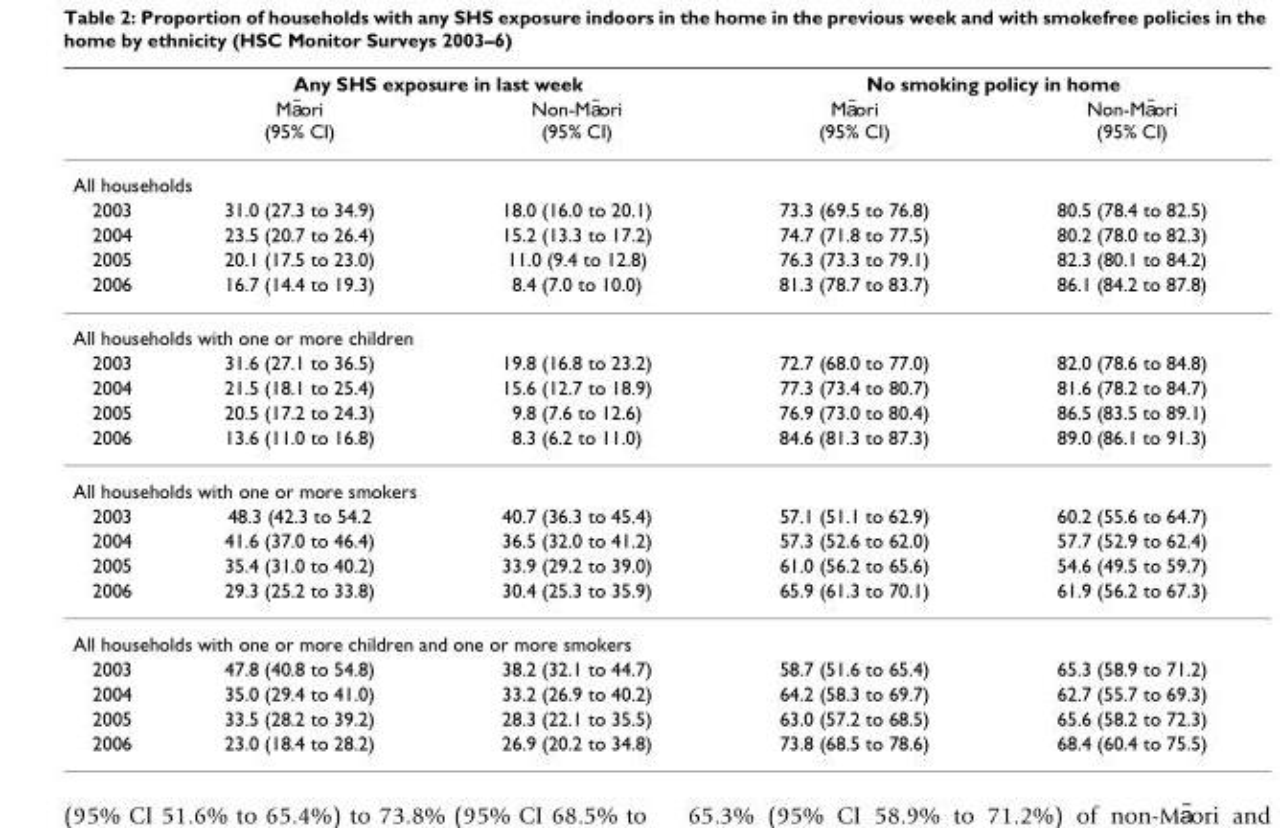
<table><thead><tr><td rowspan="2"></td><td colspan="2">Any SHS exposure in last week</td><td colspan="2">No smoking policy in home</td></tr><tr><td>Ma¯ori (95% CI)</td><td>Non-Ma¯ori (95% CI)</td><td>Ma¯ori (95% CI)</td><td>Non-Ma¯ori (95% CI)</td></tr></thead><tbody><tr><td colspan="5">All households</td></tr><tr><td>2003</td><td>31.0 (27.3 to 34.9)</td><td>18.0 (16.0 to 20.1)</td><td>73.3 (69.5 to 76.8)</td><td>80.5 (78.4 to 82.5)</td></tr><tr><td>2004</td><td>23.5 (20.7 to 26.4)</td><td>15.2 (13.3 to 17.2)</td><td>74.7 (71.8 to 77.5)</td><td>80.2 (78.0 to 82.3)</td></tr><tr><td>2005</td><td>20.1 (17.5 to 23.0)</td><td>11.0 (9.4 to 12.8)</td><td>76.3 (73.3 to 79.1)</td><td>82.3 (80.1 to 84.2)</td></tr><tr><td>2006</td><td>16.7 (14.4 to 19.3)</td><td>8.4 (7.0 to 10.0)</td><td>81.3 (78.7 to 83.7)</td><td>86.1 (84.2 to 87.8)</td></tr><tr><td colspan="5">All households with one or more children</td></tr><tr><td>2003</td><td>31.6 (27.1 to 36.5)</td><td>19.8 (16.8 to 23.2)</td><td>72.7 (68.0 to 77.0)</td><td>82.0 (78.6 to 84.8)</td></tr><tr><td>2004</td><td>21.5 (18.1 to 25.4)</td><td>15.6 (12.7 to 18.9)</td><td>77.3 (73.4 to 80.7)</td><td>81.6 (78.2 to 84.7)</td></tr><tr><td>2005</td><td>20.5 (17.2 to 24.3)</td><td>9.8 (7.6 to 12.6)</td><td>76.9 (73.0 to 80.4)</td><td>86.5 (83.5 to 89.1)</td></tr><tr><td>2006</td><td>13.6 (11.0 to 16.8)</td><td>8.3 (6.2 to 11.0)</td><td>84.6 (81.3 to 87.3)</td><td>89.0 (86.1 to 91.3)</td></tr><tr><td colspan="5">All households with one or more smokers</td></tr><tr><td>2003</td><td>48.3 (42.3 to 54.2</td><td>40.7 (36.3 to 45.4)</td><td>57.1 (51.1 to 62.9)</td><td>60.2 (55.6 to 64.7)</td></tr><tr><td>2004</td><td>41.6 (37.0 to 46.4)</td><td>36.5 (32.0 to 41.2)</td><td>57.3 (52.6 to 62.0)</td><td>57.7 (52.9 to 62.4)</td></tr><tr><td>2005</td><td>35.4 (31.0 to 40.2)</td><td>33.9 (29.2 to 39.0)</td><td>61.0 (56.2 to 65.6)</td><td>54.6 (49.5 to 59.7)</td></tr><tr><td>2006</td><td>29.3 (25.2 to 33.8)</td><td>30.4 (25.3 to 35.9)</td><td>65.9 (61.3 to 70.1)</td><td>61.9 (56.2 to 67.3)</td></tr><tr><td colspan="5">All households with one or more children and one or more smokers</td></tr><tr><td>2003</td><td>47.8 (40.8 to 54.8)</td><td>38.2 (32.1 to 44.7)</td><td>58.7 (51.6 to 65.4)</td><td>65.3 (58.9 to 71.2)</td></tr><tr><td>2004</td><td>35.0 (29.4 to 41.0)</td><td>33.2 (26.9 to 40.2)</td><td>64.2 (58.3 to 69.7)</td><td>62.7 (55.7 to 69.3)</td></tr><tr><td>2005</td><td>33.5 (28.2 to 39.2)</td><td>28.3 (22.1 to 35.5)</td><td>63.0 (57.2 to 68.5)</td><td>65.6 (58.2 to 72.3)</td></tr><tr><td>2006</td><td>23.0 (18.4 to 28.2)</td><td>26.9 (20.2 to 34.8)</td><td>73.8 (68.5 to 78.6)</td><td>68.4 (60.4 to 75.5)</td></tr></tbody></table>